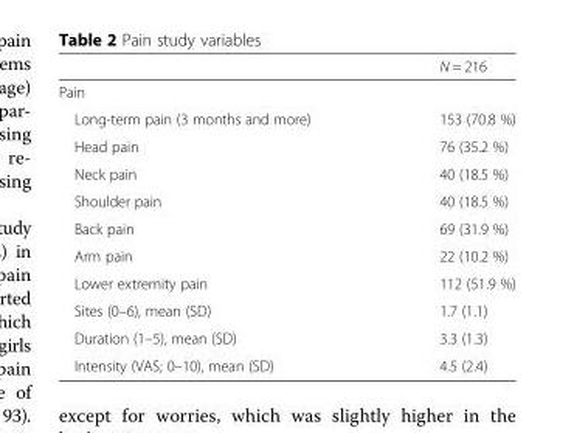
<table><thead><tr><td></td><td>N = 216</td></tr></thead><tbody><tr><td colspan="2">Pain</td></tr><tr><td>Long-term pain (3 months and more)</td><td>153 (70.8 %)</td></tr><tr><td>Head pain</td><td>76 (35.2 %)</td></tr><tr><td>Neck pain</td><td>40 (18.5 %)</td></tr><tr><td>Shoulder pain</td><td>40 (18.5 %)</td></tr><tr><td>Back pain</td><td>69 (31.9 %)</td></tr><tr><td>Arm pain</td><td>22 (10.2 %)</td></tr><tr><td>Lower extremity pain</td><td>112 (51.9 %)</td></tr><tr><td>Sites (0–6), mean (SD)</td><td>1.7 (1.1)</td></tr><tr><td>Duration (1–5), mean (SD)</td><td>3.3 (1.3)</td></tr><tr><td>Intensity (VAS; 0–10), mean (SD)</td><td>4.5 (2.4)</td></tr></tbody></table>